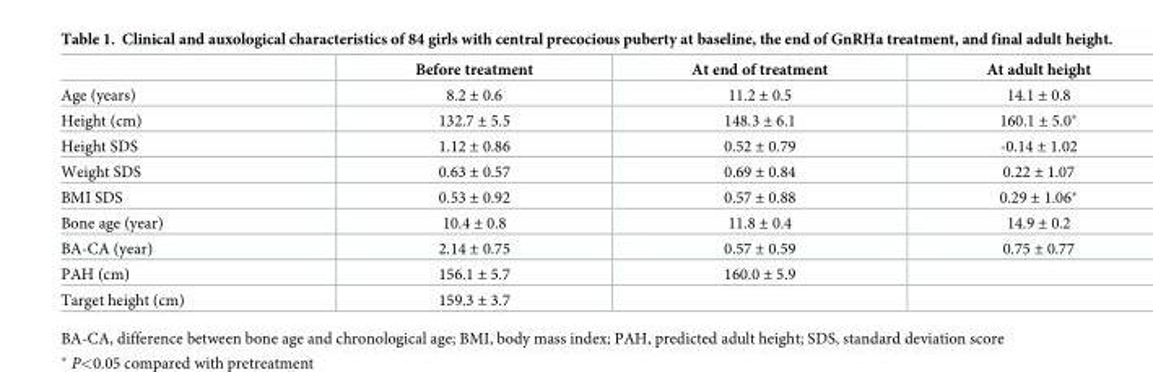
<table><thead><tr><td></td><td>Before treatment</td><td>At end of treatment</td><td>At adult height</td></tr></thead><tbody><tr><td>Age (years)</td><td>8.2 ± 0.6</td><td>11.2 ± 0.5</td><td>14.1 ± 0.8</td></tr><tr><td>Height (cm)</td><td>132.7 ± 5.5</td><td>148.3 ± 6.1</td><td>160.1 ± 5.0*</td></tr><tr><td>Height SDS</td><td>1.12 ± 0.86</td><td>0.52 ± 0.79</td><td>-0.14 ± 1.02</td></tr><tr><td>Weight SDS</td><td>0.63 ± 0.57</td><td>0.69 ± 0.84</td><td>0.22 ± 1.07</td></tr><tr><td>BMI SDS</td><td>0.53 ± 0.92</td><td>0.57 ± 0.88</td><td>0.29 ± 1.06*</td></tr><tr><td>Bone age (year)</td><td>10.4 ± 0.8</td><td>11.8 ± 0.4</td><td>14.9 ± 0.2</td></tr><tr><td>BA-CA (year)</td><td>2.14 ± 0.75</td><td>0.57 ± 0.59</td><td>0.75 ± 0.77</td></tr><tr><td>PAH (cm)</td><td>156.1 ± 5.7</td><td>160.0 ± 5.9</td><td></td></tr><tr><td>Target height (cm)</td><td>159.3 ± 3.7</td><td></td><td></td></tr></tbody></table>